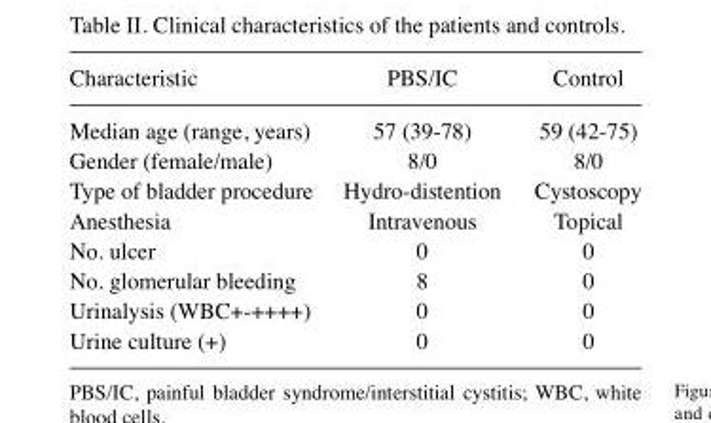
<table><thead><tr><td>Characteristic</td><td>PBS/IC</td><td>Control</td></tr></thead><tbody><tr><td>Median age (range, years)</td><td>57 (39-78)</td><td>59 (42-75)</td></tr><tr><td>Gender (female/male)</td><td>8/0</td><td>8/0</td></tr><tr><td>Type of bladder procedure</td><td>Hydro-distention</td><td>Cystoscopy</td></tr><tr><td>Anesthesia</td><td>Intravenous</td><td>Topical</td></tr><tr><td>No. ulcer</td><td>0</td><td>0</td></tr><tr><td>No. glomerular bleeding</td><td>8</td><td>0</td></tr><tr><td>Urinalysis (WBC+-++++)</td><td>0</td><td>0</td></tr><tr><td>Urine culture (+)</td><td>0</td><td>0</td></tr></tbody></table>